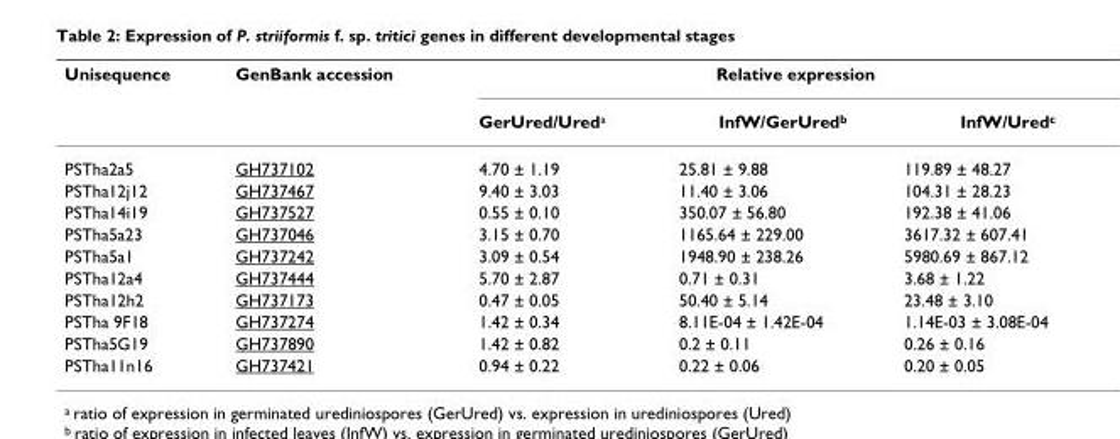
<table><thead><tr><td rowspan="2">Unisequence</td><td rowspan="2">GenBank accession</td><td colspan="3">Relative expression</td></tr><tr><td>GerUred/Ured<sup>a</sup></td><td>InfW/GerUred<sup>b</sup></td><td>InfW/Ured<sup>c</sup></td></tr></thead><tbody><tr><td>PSTha2a5</td><td>GH737102</td><td>4.70 ± 1.19</td><td>25.81 ± 9.88</td><td>119.89 ± 48.27</td></tr><tr><td>PSTha12j12</td><td>GH737467</td><td>9.40 ± 3.03</td><td>11.40 ± 3.06</td><td>104.31 ± 28.23</td></tr><tr><td>PSTha14i19</td><td>GH737527</td><td>0.55 ± 0.10</td><td>350.07 ± 56.80</td><td>192.38 ± 41.06</td></tr><tr><td>PSTha5a23</td><td>GH737046</td><td>3.15 ± 0.70</td><td>1165.64 ± 229.00</td><td>3617.32 ± 607.41</td></tr><tr><td>PSTha5a1</td><td>GH737242</td><td>3.09 ± 0.54</td><td>1948.90 ± 238.26</td><td>5980.69 ± 867.12</td></tr><tr><td>PSTha12a4</td><td>GH737444</td><td>5.70 ± 2.87</td><td>0.71 ± 0.31</td><td>3.68 ± 1.22</td></tr><tr><td>PSTha12h2</td><td>GH737173</td><td>0.47 ± 0.05</td><td>50.40 ± 5.14</td><td>23.48 ± 3.10</td></tr><tr><td>PSTha 9F18</td><td>GH737274</td><td>1.42 ± 0.34</td><td>8.11E-04 ± 1.42E-04</td><td>1.14E-03 ± 3.08E-04</td></tr><tr><td>PSTha5G19</td><td>GH737890</td><td>1.42 ± 0.82</td><td>0.2 ± 0.11</td><td>0.26 ± 0.16</td></tr><tr><td>PSTha11n16</td><td>GH737421</td><td>0.94 ± 0.22</td><td>0.22 ± 0.06</td><td>0.20 ± 0.05</td></tr></tbody></table>